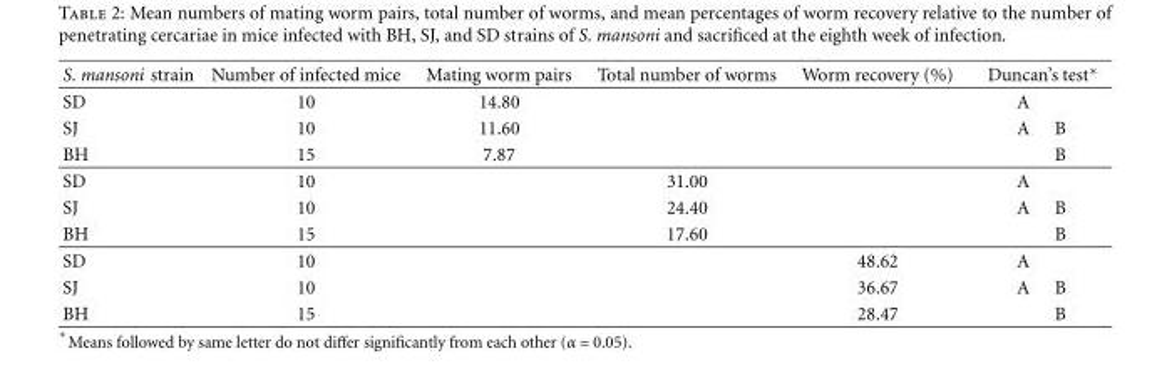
<table><thead><tr><td rowspan="2">S. mansoni strain SD</td><td rowspan="2">Number of infected mice 10</td><td rowspan="2">Mating worm pairs 14.80</td><td rowspan="2">Total number of worms</td><td rowspan="2">Worm recovery (%)</td><td colspan="2">Duncan’s test∗</td></tr><tr><td>A</td><td></td></tr></thead><tbody><tr><td>SJ</td><td>10</td><td>11.60</td><td></td><td></td><td>A</td><td>B</td></tr><tr><td>BH</td><td>15</td><td>7.87</td><td></td><td></td><td></td><td>B</td></tr><tr><td>SD</td><td>10</td><td></td><td>31.00</td><td></td><td>A</td><td></td></tr><tr><td>SJ</td><td>10</td><td></td><td>24.40</td><td></td><td>A</td><td>B</td></tr><tr><td>BH</td><td>15</td><td></td><td>17.60</td><td></td><td></td><td>B</td></tr><tr><td>SD</td><td>10</td><td></td><td></td><td>48.62</td><td>A</td><td></td></tr><tr><td>SJ</td><td>10</td><td></td><td></td><td>36.67</td><td>A</td><td>B</td></tr><tr><td>BH</td><td>15</td><td></td><td></td><td>28.47</td><td></td><td>B</td></tr></tbody></table>